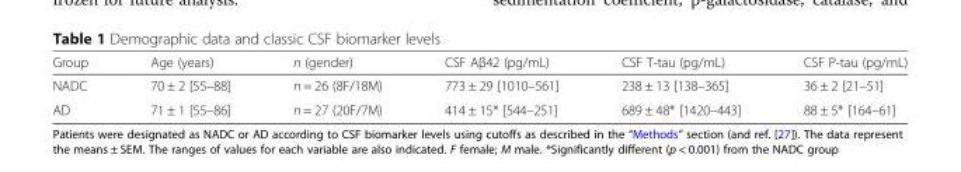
<table><thead><tr><td>Group</td><td>Age (years)</td><td>n (gender)</td><td>CSF Aβ42 (pg/mL)</td><td>CSF T-tau (pg/mL)</td><td>CSF P-tau (pg/mL)</td></tr></thead><tbody><tr><td>NADC</td><td>70 ± 2 [55–88]</td><td>n = 26 (8F/18M)</td><td>773 ± 29 [1010–561]</td><td>238 ± 13 [138–365]</td><td>36 ± 2 [21–51]</td></tr><tr><td>AD</td><td>71 ± 1 [55–86]</td><td>n = 27 (20F/7M)</td><td>414 ± 15* [544–251]</td><td>689 ± 48* [1420–443]</td><td>88 ± 5* [164–61]</td></tr></tbody></table>